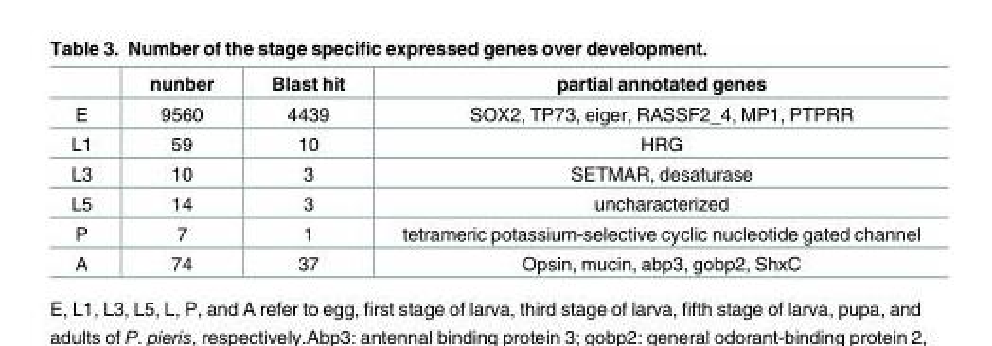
<table><thead><tr><td></td><td>nunber</td><td>Blast hit</td><td>partial annotated genes</td></tr></thead><tbody><tr><td>E</td><td>9560</td><td>4439</td><td>SOX2, TP73, eiger, RASSF2_4, MP1, PTPRR</td></tr><tr><td>L1</td><td>59</td><td>10</td><td>HRG</td></tr><tr><td>L3</td><td>10</td><td>3</td><td>SETMAR, desaturase</td></tr><tr><td>L5</td><td>14</td><td>3</td><td>uncharacterized</td></tr><tr><td>P</td><td>7</td><td>1</td><td>tetrameric potassium-selective cyclic nucleotide gated channel</td></tr><tr><td>A</td><td>74</td><td>37</td><td>Opsin, mucin, abp3, gobp2, ShxC</td></tr></tbody></table>